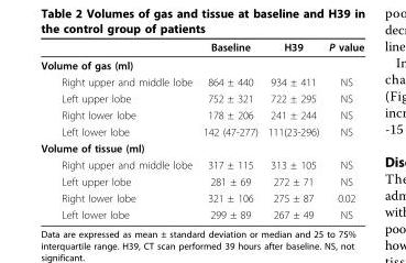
<table><thead><tr><td></td><td>Baseline</td><td>H39</td><td>P value</td></tr></thead><tbody><tr><td colspan="4">Volume of gas (ml)</td></tr><tr><td>Right upper and middle lobe</td><td>864 ± 440</td><td>934 ± 411</td><td>NS</td></tr><tr><td>Left upper lobe</td><td>752 ± 321</td><td>722 ± 295</td><td>NS</td></tr><tr><td>Right lower lobe</td><td>178 ± 206</td><td>241 ± 244</td><td>NS</td></tr><tr><td>Left lower lobe</td><td>142 (47-277)</td><td>111(23-296)</td><td>NS</td></tr><tr><td colspan="4">Volume of tissue (ml)</td></tr><tr><td>Right upper and middle lobe</td><td>317 ± 115</td><td>313 ± 105</td><td>NS</td></tr><tr><td>Left upper lobe</td><td>281 ± 69</td><td>272 ± 71</td><td>NS</td></tr><tr><td>Right lower lobe</td><td>321 ± 106</td><td>275 ± 87</td><td>0.02</td></tr><tr><td>Left lower lobe</td><td>299 ± 89</td><td>267 ± 49</td><td>NS</td></tr></tbody></table>